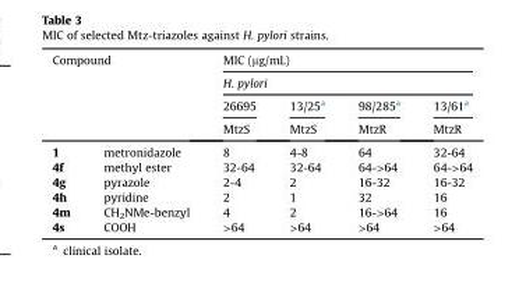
<table><thead><tr><td rowspan="4" colspan="2">Compound</td><td rowspan="2" colspan="4">MIC (μg/mL) H. pylori</td></tr><tr></tr><tr><td rowspan="3">26695 MtzS 8</td><td rowspan="3">13/25<sup>a</sup> MtzS 4-8</td><td rowspan="3">98/285<sup>a</sup> MtzR 64</td><td rowspan="3">13/61<sup>a</sup> MtzR 32-64</td></tr><tr></tr><tr><td>1</td><td>metronidazole</td></tr></thead><tbody><tr><td>4f</td><td>methyl ester</td><td>32-64</td><td>32-64</td><td>64-&gt;64</td><td>64-&gt;64</td></tr><tr><td>4g</td><td>pyrazole</td><td>2-4</td><td>2</td><td>16-32</td><td>16-32</td></tr><tr><td>4h</td><td>pyridine</td><td>2</td><td>1</td><td>32</td><td>16</td></tr><tr><td>4m</td><td>CH<sub>2</sub>NMe-benzyl</td><td>4</td><td>2</td><td>16-&gt;64</td><td>16</td></tr><tr><td>4s</td><td>COOH</td><td>&gt;64</td><td>&gt;64</td><td>&gt;64</td><td>&gt;64</td></tr></tbody></table>